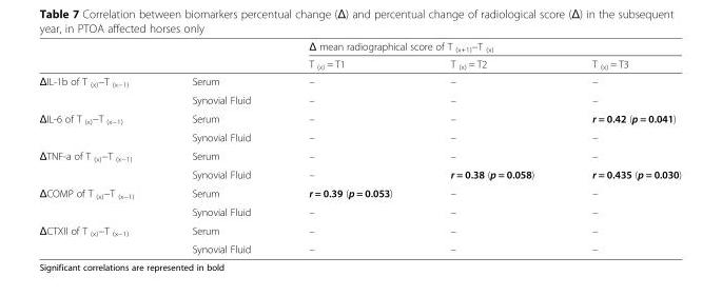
<table><thead><tr><td rowspan="2"></td><td rowspan="2"></td><td colspan="3">Δ mean radiographical score of T <sub>(x+1)</sub>−T <sub>(x)</sub></td></tr><tr><td>T <sub>(x)</sub> = T1</td><td>T <sub>(x)</sub> = T2</td><td>T <sub>(x)</sub> = T3</td></tr></thead><tbody><tr><td rowspan="2">ΔIL-1b of T <sub>(x)</sub>−T <sub>(x−1)</sub></td><td>Serum</td><td>–</td><td>–</td><td>–</td></tr><tr><td>Synovial Fluid</td><td>–</td><td>–</td><td>–</td></tr><tr><td rowspan="2">ΔIL-6 of T <sub>(x)</sub>−T <sub>(x−1)</sub></td><td>Serum</td><td>–</td><td>–</td><td>r = 0.42 (p = 0.041)</td></tr><tr><td>Synovial Fluid</td><td>–</td><td>–</td><td>–</td></tr><tr><td rowspan="2">ΔTNF-a of T <sub>(x)</sub>−T <sub>(x−1)</sub></td><td>Serum</td><td>–</td><td>–</td><td>–</td></tr><tr><td>Synovial Fluid</td><td>–</td><td>r = 0.38 (p = 0.058)</td><td>r = 0.435 (p = 0.030)</td></tr><tr><td rowspan="2">ΔCOMP of T <sub>(x)</sub>−T <sub>(x−1)</sub></td><td>Serum</td><td>r = 0.39 (p = 0.053)</td><td>–</td><td>–</td></tr><tr><td>Synovial Fluid</td><td>–</td><td>–</td><td>–</td></tr><tr><td rowspan="2">ΔCTXII of T <sub>(x)</sub>−T <sub>(x−1)</sub></td><td>Serum</td><td>–</td><td>–</td><td>–</td></tr><tr><td>Synovial Fluid</td><td>–</td><td>–</td><td>–</td></tr></tbody></table>